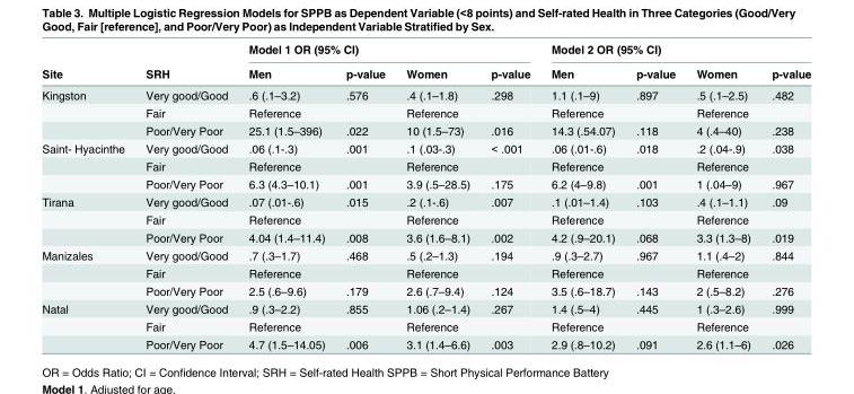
<table><thead><tr><td rowspan="2">Site</td><td rowspan="2">SRH</td><td colspan="4">Model 1 OR (95% CI)</td><td colspan="4">Model 2 OR (95% CI)</td></tr><tr><td>Men</td><td>p-value</td><td>Women</td><td>p-value</td><td>Men</td><td>p-value</td><td>Women</td><td>p-value</td></tr></thead><tbody><tr><td rowspan="3">Kingston</td><td>Very good/Good</td><td>.6 (.1–3.2)</td><td>.576</td><td>.4 (.1–1.8)</td><td>.298</td><td>1.1 (.1–9)</td><td>.897</td><td>.5 (.1–2.5)</td><td>.482</td></tr><tr><td>Fair</td><td>Reference</td><td></td><td>Reference</td><td></td><td>Reference</td><td></td><td>Reference</td><td></td></tr><tr><td>Poor/Very Poor</td><td>25.1 (1.5–396)</td><td>.022</td><td>10 (1.5–73)</td><td>.016</td><td>14.3 (.54.07)</td><td>.118</td><td>4 (.4–40)</td><td>.238</td></tr><tr><td rowspan="3">Saint- Hyacinthe</td><td>Very good/Good</td><td>.06 (.1-.3)</td><td>.001</td><td>.1 (.03-.3)</td><td>&lt; .001</td><td>.06 (.01-.6)</td><td>.018</td><td>.2 (.04-.9)</td><td>.038</td></tr><tr><td>Fair</td><td>Reference</td><td></td><td>Reference</td><td></td><td>Reference</td><td></td><td>Reference</td><td></td></tr><tr><td>Poor/Very Poor</td><td>6.3 (4.3–10.1)</td><td>.001</td><td>3.9 (.5–28.5)</td><td>.175</td><td>6.2 (4–9.8)</td><td>.001</td><td>1 (.04–9)</td><td>.967</td></tr><tr><td rowspan="3">Tirana</td><td>Very good/Good</td><td>.07 (.01-.6)</td><td>.015</td><td>.2 (.1-.6)</td><td>.007</td><td>.1 (.01–1.4)</td><td>.103</td><td>.4 (.1–1.1)</td><td>.09</td></tr><tr><td>Fair</td><td>Reference</td><td></td><td>Reference</td><td></td><td>Reference</td><td></td><td>Reference</td><td></td></tr><tr><td>Poor/Very Poor</td><td>4.04 (1.4–11.4)</td><td>.008</td><td>3.6 (1.6–8.1)</td><td>.002</td><td>4.2 (.9–20.1)</td><td>.068</td><td>3.3 (1.3–8)</td><td>.019</td></tr><tr><td rowspan="3">Manizales</td><td>Very good/Good</td><td>.7 (.3–1.7)</td><td>.468</td><td>.5 (.2–1.3)</td><td>.194</td><td>.9 (.3–2.7)</td><td>.967</td><td>1.1 (.4–2)</td><td>.844</td></tr><tr><td>Fair</td><td>Reference</td><td></td><td>Reference</td><td></td><td>Reference</td><td></td><td>Reference</td><td></td></tr><tr><td>Poor/Very Poor</td><td>2.5 (.6–9.6)</td><td>.179</td><td>2.6 (.7–9.4)</td><td>.124</td><td>3.5 (.6–18.7)</td><td>.143</td><td>2 (.5–8.2)</td><td>.276</td></tr><tr><td rowspan="3">Natal</td><td>Very good/Good</td><td>.9 (.3–2.2)</td><td>.855</td><td>1.06 (.2–1.4)</td><td>.267</td><td>1.4 (.5–4)</td><td>.445</td><td>1 (.3–2.6)</td><td>.999</td></tr><tr><td>Fair</td><td>Reference</td><td></td><td>Reference</td><td></td><td>Reference</td><td></td><td>Reference</td><td></td></tr><tr><td>Poor/Very Poor</td><td>4.7 (1.5–14.05)</td><td>.006</td><td>3.1 (1.4–6.6)</td><td>.003</td><td>2.9 (.8–10.2)</td><td>.091</td><td>2.6 (1.1–6)</td><td>.026</td></tr></tbody></table>